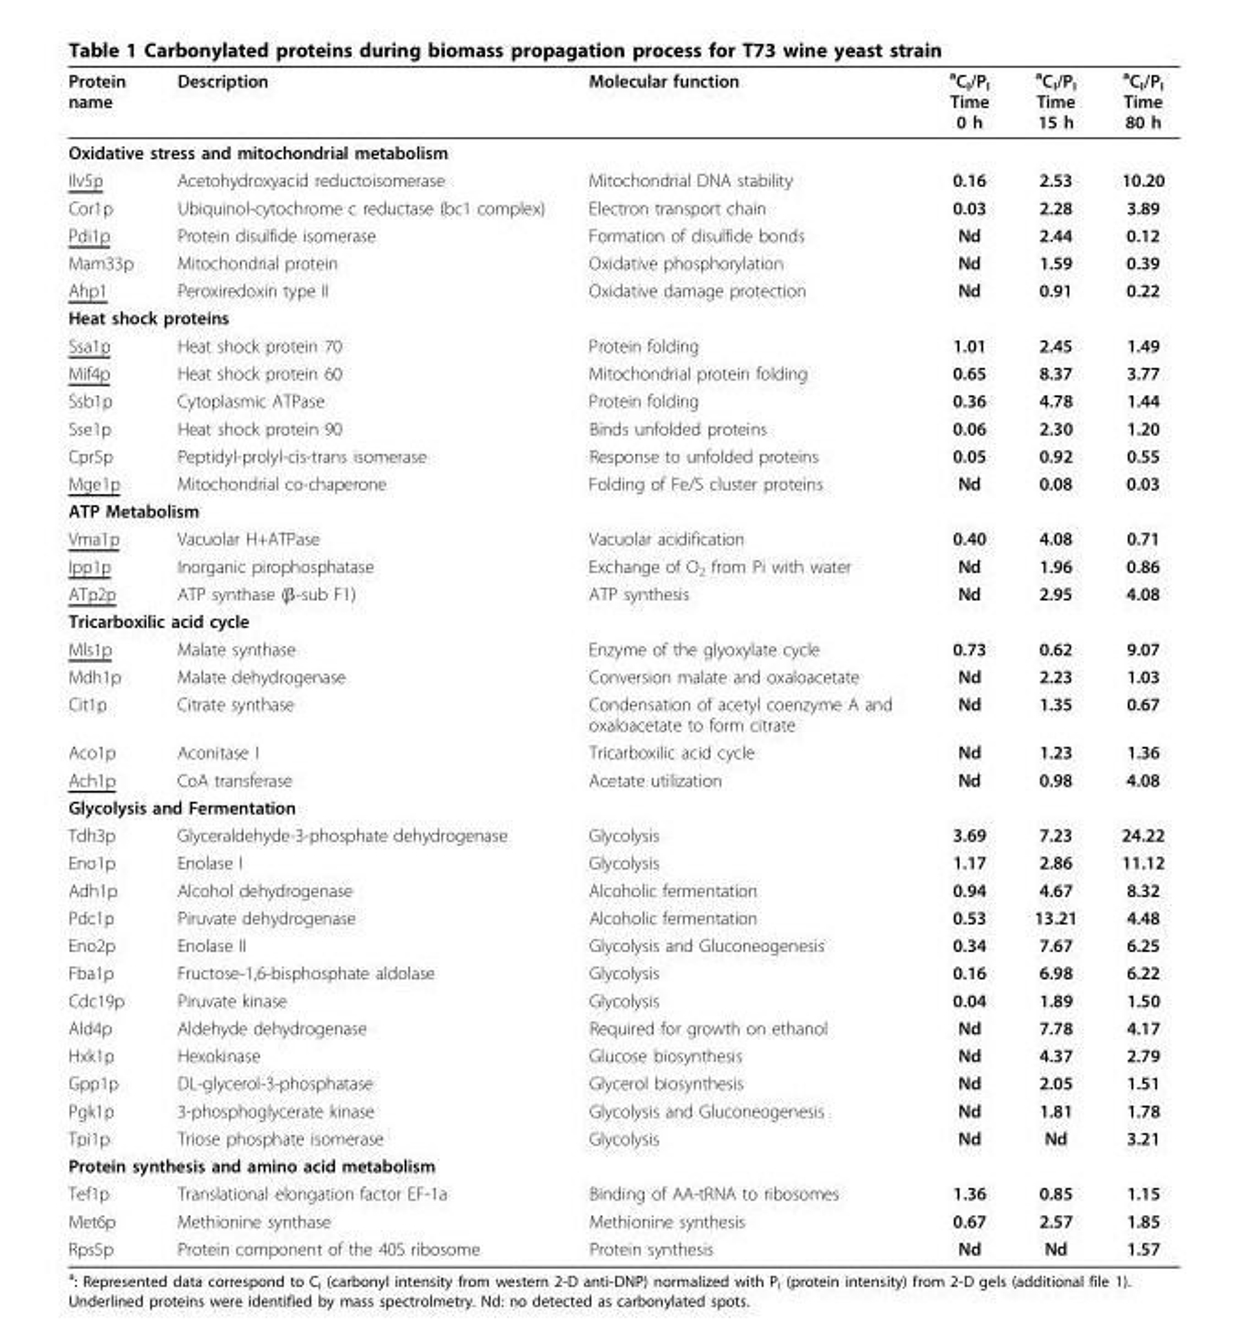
<table><thead><tr><td>Protein name</td><td>Description</td><td>Molecular function</td><td><sup>a</sup>C<sub>I</sub>/P<sub>I</sub> Time 0 h</td><td><sup>a</sup>C<sub>I</sub>/P<sub>I</sub> Time 15 h</td><td><sup>a</sup>C<sub>I</sub>/P<sub>I</sub> Time 80 h</td></tr></thead><tbody><tr><td colspan="6">Oxidative stress and mitochondrial metabolism</td></tr><tr><td>Ilv5p</td><td>Acetohydroxyacid reductoisomerase</td><td>Mitochondrial DNA stability</td><td>0.16</td><td>2.53</td><td>10.20</td></tr><tr><td>Cor1p</td><td>Ubiquinol-cytochrome c reductase (bc1 complex)</td><td>Electron transport chain</td><td>0.03</td><td>2.28</td><td>3.89</td></tr><tr><td>Pdi1p</td><td>Protein disulfide isomerase</td><td>Formation of disulfide bonds</td><td>Nd</td><td>2.44</td><td>0.12</td></tr><tr><td>Mam33p</td><td>Mitochondrial protein</td><td>Oxidative phosphorylation</td><td>Nd</td><td>1.59</td><td>0.39</td></tr><tr><td>Ahp1</td><td>Peroxiredoxin type II</td><td>Oxidative damage protection</td><td>Nd</td><td>0.91</td><td>0.22</td></tr><tr><td colspan="6">Heat shock proteins</td></tr><tr><td>Ssa1p</td><td>Heat shock protein 70</td><td>Protein folding</td><td>1.01</td><td>2.45</td><td>1.49</td></tr><tr><td>Mif4p</td><td>Heat shock protein 60</td><td>Mitochondrial protein folding</td><td>0.65</td><td>8.37</td><td>3.77</td></tr><tr><td>Ssb1p</td><td>Cytoplasmic ATPase</td><td>Protein folding</td><td>0.36</td><td>4.78</td><td>1.44</td></tr><tr><td>Sse1p</td><td>Heat shock protein 90</td><td>Binds unfolded proteins</td><td>0.06</td><td>2.30</td><td>1.20</td></tr><tr><td>Cpr5p</td><td>Peptidyl-prolyl-cis-trans isomerase</td><td>Response to unfolded proteins</td><td>0.05</td><td>0.92</td><td>0.55</td></tr><tr><td>Mge1p</td><td>Mitochondrial co-chaperone</td><td>Folding of Fe/S cluster proteins</td><td>Nd</td><td>0.08</td><td>0.03</td></tr><tr><td colspan="6">ATP Metabolism</td></tr><tr><td>Vma1p</td><td>Vacuolar H+ATPase</td><td>Vacuolar acidification</td><td>0.40</td><td>4.08</td><td>0.71</td></tr><tr><td>Ipp1p</td><td>Inorganic pirophosphatase</td><td>Exchange of O<sub>2</sub> from Pi with water</td><td>Nd</td><td>1.96</td><td>0.86</td></tr><tr><td>ATp2p</td><td>ATP synthase (β-sub F1)</td><td>ATP synthesis</td><td>Nd</td><td>2.95</td><td>4.08</td></tr><tr><td colspan="6">Tricarboxilic acid cycle</td></tr><tr><td>Mls1p</td><td>Malate synthase</td><td>Enzyme of the glyoxylate cycle</td><td>0.73</td><td>0.62</td><td>9.07</td></tr><tr><td>Mdh1p</td><td>Malate dehydrogenase</td><td>Conversion malate and oxaloacetate</td><td>Nd</td><td>2.23</td><td>1.03</td></tr><tr><td>Cit1p</td><td>Citrate synthase</td><td>Condensation of acetyl coenzyme A and oxaloacetate to form citrate</td><td>Nd</td><td>1.35</td><td>0.67</td></tr><tr><td>Aco1p</td><td>Aconitase I</td><td>Tricarboxilic acid cycle</td><td>Nd</td><td>1.23</td><td>1.36</td></tr><tr><td>Ach1p</td><td>CoA transferase</td><td>Acetate utilization</td><td>Nd</td><td>0.98</td><td>4.08</td></tr><tr><td colspan="6">Glycolysis and Fermentation</td></tr><tr><td>Tdh3p</td><td>Glyceraldehyde-3-phosphate dehydrogenase</td><td>Glycolysis</td><td>3.69</td><td>7.23</td><td>24.22</td></tr><tr><td>Eno1p</td><td>Enolase I</td><td>Glycolysis</td><td>1.17</td><td>2.86</td><td>11.12</td></tr><tr><td>Adh1p</td><td>Alcohol dehydrogenase</td><td>Alcoholic fermentation</td><td>0.94</td><td>4.67</td><td>8.32</td></tr><tr><td>Pdc1p</td><td>Piruvate dehydrogenase</td><td>Alcoholic fermentation</td><td>0.53</td><td>13.21</td><td>4.48</td></tr><tr><td>Eno2p</td><td>Enolase II</td><td>Glycolysis and Gluconeogenesis</td><td>0.34</td><td>7.67</td><td>6.25</td></tr><tr><td>Fba1p</td><td>Fructose-1,6-bisphosphate aldolase</td><td>Glycolysis</td><td>0.16</td><td>6.98</td><td>6.22</td></tr><tr><td>Cdc19p</td><td>Piruvate kinase</td><td>Glycolysis</td><td>0.04</td><td>1.89</td><td>1.50</td></tr><tr><td>Ald4p</td><td>Aldehyde dehydrogenase</td><td>Required for growth on ethanol</td><td>Nd</td><td>7.78</td><td>4.17</td></tr><tr><td>Hxk1p</td><td>Hexokinase</td><td>Glucose biosynthesis</td><td>Nd</td><td>4.37</td><td>2.79</td></tr><tr><td>Gpp1p</td><td>DL-glycerol-3-phosphatase</td><td>Glycerol biosynthesis</td><td>Nd</td><td>2.05</td><td>1.51</td></tr><tr><td>Pgk1p</td><td>3-phosphoglycerate kinase</td><td>Glycolysis and Gluconeogenesis</td><td>Nd</td><td>1.81</td><td>1.78</td></tr><tr><td>Tpi1p</td><td>Triose phosphate isomerase</td><td>Glycolysis</td><td>Nd</td><td>Nd</td><td>3.21</td></tr><tr><td colspan="6">Protein synthesis and amino acid metabolism</td></tr><tr><td>Tef1p</td><td>Translational elongation factor EF-1a</td><td>Binding of AA-tRNA to ribosomes</td><td>1.36</td><td>0.85</td><td>1.15</td></tr><tr><td>Met6p</td><td>Methionine synthase</td><td>Methionine synthesis</td><td>0.67</td><td>2.57</td><td>1.85</td></tr><tr><td>Rps5p</td><td>Protein component of the 40S ribosome</td><td>Protein synthesis</td><td>Nd</td><td>Nd</td><td>1.57</td></tr></tbody></table>